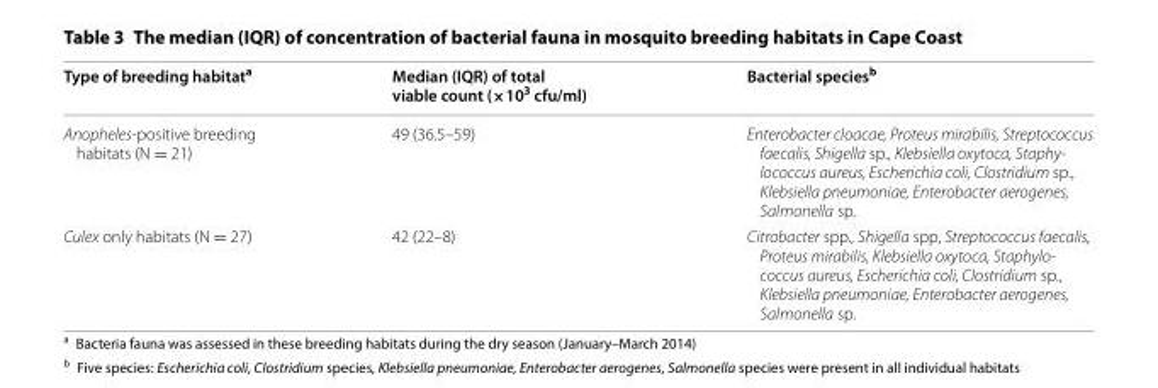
<table><thead><tr><td>Type of breeding habitat<sup>a</sup></td><td>Median (IQR) of total viable count (×10<sup>3</sup> cfu/ml)</td><td>Bacterial species<sup>b</sup></td></tr></thead><tbody><tr><td>Anopheles-positive breeding habitats (N = 21)</td><td>49 (36.5–59)</td><td>Enterobacter cloacae, Proteus mirabilis, Streptococcus faecalis, Shigella sp., Klebsiella oxytoca, Staphy- lococcus aureus, Escherichia coli, Clostridium sp., Klebsiella pneumoniae, Enterobacter aerogenes, Salmonella sp.</td></tr><tr><td>Culex only habitats (N = 27)</td><td>42 (22–8)</td><td>Citrobacter spp., Shigella spp, Streptococcus faecalis, Proteus mirabilis, Klebsiella oxytoca, Staphylo- coccus aureus, Escherichia coli, Clostridium sp., Klebsiella pneumoniae, Enterobacter aerogenes, Salmonella sp.</td></tr></tbody></table>